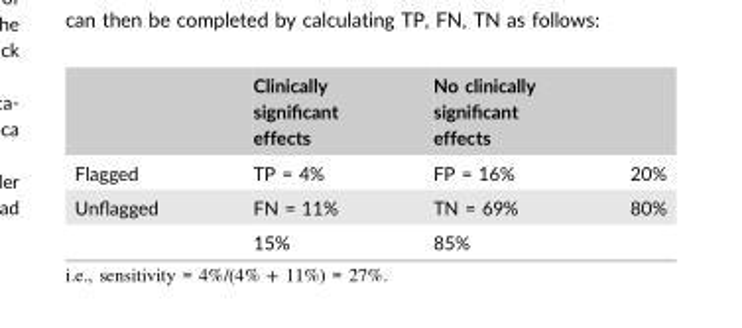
<table><thead><tr><td></td><td>Clinically significant effects</td><td>No clinically significant effects</td><td></td></tr></thead><tbody><tr><td>Flagged</td><td>TP = 4%</td><td>FP = 16%</td><td>20%</td></tr><tr><td rowspan="2">Unflagged</td><td>FN = 11%</td><td>TN = 69%</td><td>80%</td></tr><tr><td>15%</td><td>85%</td><td></td></tr></tbody></table>